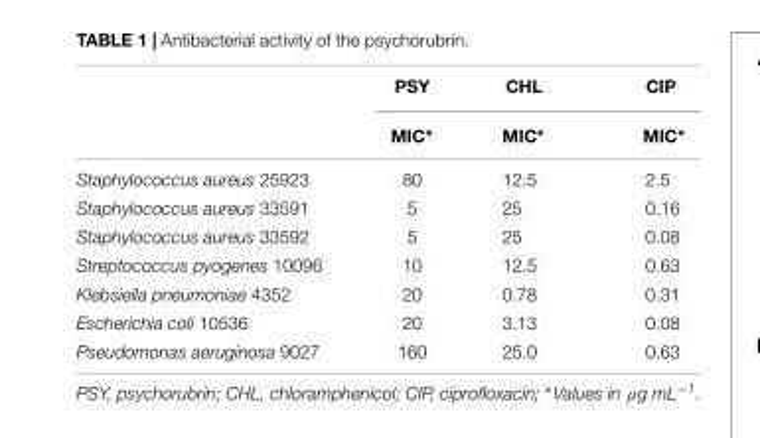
<table><thead><tr><td rowspan="2"></td><td rowspan="2">PSY MIC∗</td><td rowspan="2">CHL MIC∗</td><td rowspan="2">CIP MIC∗</td></tr><tr></tr></thead><tbody><tr><td>Staphylococcus aureus 25923</td><td>80</td><td>12.5</td><td>2.5</td></tr><tr><td>Staphylococcus aureus 33591</td><td>5</td><td>25</td><td>0.16</td></tr><tr><td>Staphylococcus aureus 33592</td><td>5</td><td>25</td><td>0.08</td></tr><tr><td>Streptococcus pyogenes 10096</td><td>10</td><td>12.5</td><td>0.63</td></tr><tr><td>Klebsiella pneumoniae 4352</td><td>20</td><td>0.78</td><td>0.31</td></tr><tr><td>Escherichia coli 10536</td><td>20</td><td>3.13</td><td>0.08</td></tr><tr><td>Pseudomonas aeruginosa 9027</td><td>160</td><td>25.0</td><td>0.63</td></tr></tbody></table>